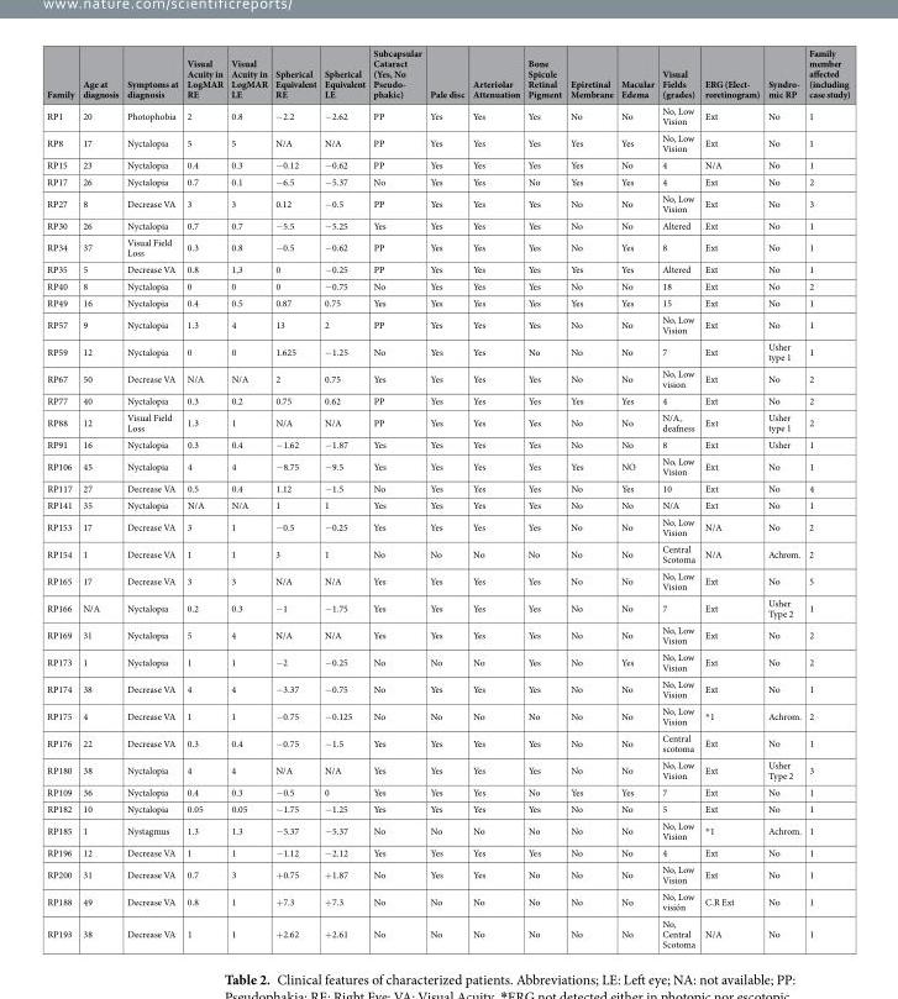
<table><thead><tr><td>Family</td><td>Age at diagnosis</td><td>Symptoms at diagnosis</td><td>Visual Acuity in LogMAR RE</td><td>Visual Acuity in LogMAR LE</td><td>Spherical Equivalent RE</td><td>Spherical Equivalent LE</td><td>Subcapsular Cataract (Yes, No Pseudo phakic)</td><td>Pale disc</td><td>Arteriolar Attenuation</td><td>Bone Spicule Retinal Pigment</td><td>Epiretinal Membrane</td><td>Macular Edema</td><td>Visual Fields (grades)</td><td>ERG (Elect roretinogram)</td><td>Syndro mic RP</td><td>Family member affected (including case study)</td></tr></thead><tbody><tr><td>RP1</td><td>20</td><td>Photophobia</td><td>2</td><td>0.8</td><td>−2.2</td><td>−2.62</td><td>PP</td><td>Yes</td><td>Yes</td><td>Yes</td><td>No</td><td>No</td><td>No, Low Vision</td><td>Ext</td><td>No</td><td>1</td></tr><tr><td>RP8</td><td>17</td><td>Nyctalopia</td><td>5</td><td>5</td><td>N/A</td><td>N/A</td><td>PP</td><td>Yes</td><td>Yes</td><td>Yes</td><td>Yes</td><td>Yes</td><td>No, Low Vision</td><td>Ext</td><td>No</td><td>1</td></tr><tr><td>RP15</td><td>23</td><td>Nyctalopia</td><td>0.4</td><td>0.3</td><td>−0.12</td><td>−0.62</td><td>PP</td><td>Yes</td><td>Yes</td><td>Yes</td><td>Yes</td><td>No</td><td>4</td><td>N/A</td><td>No</td><td>1</td></tr><tr><td>RP17</td><td>26</td><td>Nyctalopia</td><td>0.7</td><td>0.1</td><td>−6.5</td><td>−5.37</td><td>No</td><td>Yes</td><td>Yes</td><td>No</td><td>Yes</td><td>Yes</td><td>4</td><td>Ext</td><td>No</td><td>2</td></tr><tr><td>RP27</td><td>8</td><td>Decrease VA</td><td>3</td><td>3</td><td>0.12</td><td>−0.5</td><td>PP</td><td>Yes</td><td>Yes</td><td>Yes</td><td>No</td><td>No</td><td>No, Low Vision</td><td>Ext</td><td>No</td><td>3</td></tr><tr><td>RP30</td><td>26</td><td>Nyctalopia</td><td>0.7</td><td>0.7</td><td>−5.5</td><td>−5.25</td><td>Yes</td><td>Yes</td><td>Yes</td><td>Yes</td><td>No</td><td>No</td><td>Altered</td><td>Ext</td><td>No</td><td>1</td></tr><tr><td>RP34</td><td>37</td><td>Visual Field Loss</td><td>0.3</td><td>0.8</td><td>−0.5</td><td>−0.62</td><td>PP</td><td>Yes</td><td>Yes</td><td>Yes</td><td>No</td><td>Yes</td><td>8</td><td>Ext</td><td>No</td><td>1</td></tr><tr><td>RP35</td><td>5</td><td>Decrease VA</td><td>0.8</td><td>1,3</td><td>0</td><td>−0.25</td><td>PP</td><td>Yes</td><td>Yes</td><td>Yes</td><td>Yes</td><td>Yes</td><td>Altered</td><td>Ext</td><td>No</td><td>1</td></tr><tr><td>RP40</td><td>8</td><td>Nyctalopia</td><td>0</td><td>0</td><td>0</td><td>−0.75</td><td>No</td><td>Yes</td><td>Yes</td><td>Yes</td><td>No</td><td>No</td><td>18</td><td>Ext</td><td>No</td><td>2</td></tr><tr><td>RP49</td><td>16</td><td>Nyctalopia</td><td>0.4</td><td>0.5</td><td>0.87</td><td>0.75</td><td>Yes</td><td>Yes</td><td>Yes</td><td>Yes</td><td>Yes</td><td>Yes</td><td>15</td><td>Ext</td><td>No</td><td>1</td></tr><tr><td>RP57</td><td>9</td><td>Nyctalopia</td><td>1.3</td><td>4</td><td>13</td><td>2</td><td>PP</td><td>Yes</td><td>Yes</td><td>Yes</td><td>No</td><td>No</td><td>No, Low Vision</td><td>Ext</td><td>No</td><td>1</td></tr><tr><td>RP59</td><td>12</td><td>Nyctalopia</td><td>0</td><td>0</td><td>1.625</td><td>−1.25</td><td>No</td><td>Yes</td><td>Yes</td><td>No</td><td>No</td><td>No</td><td>7</td><td>Ext</td><td>Usher type 1</td><td>1</td></tr><tr><td>RP67</td><td>50</td><td>Decrease VA</td><td>N/A</td><td>N/A</td><td>2</td><td>0.75</td><td>Yes</td><td>Yes</td><td>Yes</td><td>Yes</td><td>No</td><td>No</td><td>No, Low vision</td><td>Ext</td><td>No</td><td>2</td></tr><tr><td>RP77</td><td>40</td><td>Nyctalopia</td><td>0.3</td><td>0.2</td><td>0.75</td><td>0.62</td><td>PP</td><td>Yes</td><td>Yes</td><td>Yes</td><td>Yes</td><td>Yes</td><td>4</td><td>Ext</td><td>No</td><td>2</td></tr><tr><td>RP88</td><td>12</td><td>Visual Field Loss</td><td>1.3</td><td>1</td><td>N/A</td><td>N/A</td><td>PP</td><td>Yes</td><td>Yes</td><td>Yes</td><td>No</td><td>No</td><td>N/A, deafness</td><td>Ext</td><td>Usher type 1</td><td>2</td></tr><tr><td>RP91</td><td>16</td><td>Nyctalopia</td><td>0.3</td><td>0.4</td><td>−1.62</td><td>−1.87</td><td>Yes</td><td>Yes</td><td>Yes</td><td>Yes</td><td>No</td><td>No</td><td>8</td><td>Ext</td><td>Usher</td><td>1</td></tr><tr><td>RP106</td><td>45</td><td>Nyctalopia</td><td>4</td><td>4</td><td>−8.75</td><td>−9.5</td><td>Yes</td><td>Yes</td><td>Yes</td><td>Yes</td><td>Yes</td><td>NO</td><td>No, Low Vision</td><td>Ext</td><td>No</td><td>1</td></tr><tr><td>RP117</td><td>27</td><td>Decrease VA</td><td>0.5</td><td>0.4</td><td>1.12</td><td>−1.5</td><td>No</td><td>Yes</td><td>Yes</td><td>Yes</td><td>No</td><td>Yes</td><td>10</td><td>Ext</td><td>No</td><td>4</td></tr><tr><td>RP141</td><td>35</td><td>Nyctalopia</td><td>N/A</td><td>N/A</td><td>1</td><td>1</td><td>Yes</td><td>Yes</td><td>Yes</td><td>Yes</td><td>No</td><td>No</td><td>N/A</td><td>Ext</td><td>No</td><td>1</td></tr><tr><td>RP153</td><td>17</td><td>Decrease VA</td><td>3</td><td>1</td><td>−0.5</td><td>−0.25</td><td>Yes</td><td>Yes</td><td>Yes</td><td>Yes</td><td>No</td><td>No</td><td>No, Low Vision</td><td>N/A</td><td>No</td><td>2</td></tr><tr><td>RP154</td><td>1</td><td>Decrease VA</td><td>1</td><td>1</td><td>3</td><td>1</td><td>No</td><td>No</td><td>No</td><td>No</td><td>No</td><td>No</td><td>Central Scotoma</td><td>N/A</td><td>Achrom.</td><td>2</td></tr><tr><td>RP165</td><td>17</td><td>Decrease VA</td><td>3</td><td>3</td><td>N/A</td><td>N/A</td><td>Yes</td><td>Yes</td><td>Yes</td><td>Yes</td><td>No</td><td>No</td><td>No, Low Vision</td><td>Ext</td><td>No</td><td>5</td></tr><tr><td>RP166</td><td>N/A</td><td>Nyctalopia</td><td>0.2</td><td>0.3</td><td>−1</td><td>−1.75</td><td>Yes</td><td>Yes</td><td>Yes</td><td>Yes</td><td>No</td><td>No</td><td>7</td><td>Ext</td><td>Usher Type 2</td><td>1</td></tr><tr><td>RP169</td><td>31</td><td>Nyctalopia</td><td>5</td><td>4</td><td>N/A</td><td>N/A</td><td>Yes</td><td>Yes</td><td>Yes</td><td>Yes</td><td>No</td><td>No</td><td>No, Low Vision</td><td>Ext</td><td>No</td><td>2</td></tr><tr><td>RP173</td><td>1</td><td>Nyctalopia</td><td>1</td><td>1</td><td>−2</td><td>−0.25</td><td>No</td><td>No</td><td>No</td><td>Yes</td><td>No</td><td>Yes</td><td>No, Low Vision</td><td>Ext</td><td>No</td><td>2</td></tr><tr><td>RP174</td><td>38</td><td>Decrease VA</td><td>4</td><td>4</td><td>−3.37</td><td>−0.75</td><td>No</td><td>Yes</td><td>Yes</td><td>Yes</td><td>No</td><td>No</td><td>No, Low Vision</td><td>Ext</td><td>No</td><td>1</td></tr><tr><td>RP175</td><td>4</td><td>Decrease VA</td><td>1</td><td>1</td><td>−0.75</td><td>−0.125</td><td>No</td><td>No</td><td>No</td><td>No</td><td>No</td><td>No</td><td>No, Low Vision</td><td>*1</td><td>Achrom.</td><td>2</td></tr><tr><td>RP176</td><td>22</td><td>Decrease VA</td><td>0.3</td><td>0.4</td><td>−0.75</td><td>−1.5</td><td>Yes</td><td>Yes</td><td>Yes</td><td>Yes</td><td>No</td><td>No</td><td>Central scotoma</td><td>Ext</td><td>No</td><td>1</td></tr><tr><td>RP180</td><td>38</td><td>Nyctalopia</td><td>4</td><td>4</td><td>N/A</td><td>N/A</td><td>Yes</td><td>Yes</td><td>Yes</td><td>Yes</td><td>No</td><td>No</td><td>No, Low Vision</td><td>Ext</td><td>Usher Type 2</td><td>3</td></tr><tr><td>RP109</td><td>36</td><td>Nyctalopia</td><td>0.4</td><td>0.3</td><td>−0.5</td><td>0</td><td>Yes</td><td>Yes</td><td>Yes</td><td>No</td><td>Yes</td><td>Yes</td><td>7</td><td>Ext</td><td>No</td><td>1</td></tr><tr><td>RP182</td><td>10</td><td>Nyctalopia</td><td>0.05</td><td>0.05</td><td>−1.75</td><td>−1.25</td><td>Yes</td><td>Yes</td><td>Yes</td><td>Yes</td><td>No</td><td>No</td><td>5</td><td>Ext</td><td>No</td><td>1</td></tr><tr><td>RP185</td><td>1</td><td>Nystagmus</td><td>1.3</td><td>1.3</td><td>−5.37</td><td>−5.37</td><td>No</td><td>No</td><td>No</td><td>No</td><td>No</td><td>No</td><td>No, Low Vision</td><td>*1</td><td>Achrom.</td><td>1</td></tr><tr><td>RP196</td><td>12</td><td>Decrease VA</td><td>1</td><td>1</td><td>−1.12</td><td>−2.12</td><td>Yes</td><td>Yes</td><td>Yes</td><td>Yes</td><td>No</td><td>No</td><td>4</td><td>Ext</td><td>No</td><td>1</td></tr><tr><td>RP200</td><td>31</td><td>Decrease VA</td><td>0.7</td><td>3</td><td>+0.75</td><td>+1.87</td><td>No</td><td>Yes</td><td>Yes</td><td>No</td><td>No</td><td>No</td><td>No, Low Vision</td><td>Ext</td><td>No</td><td>1</td></tr><tr><td>RP188</td><td>49</td><td>Decrease VA</td><td>0.8</td><td>1</td><td>+7.3</td><td>+7.3</td><td>No</td><td>No</td><td>No</td><td>No</td><td>No</td><td>No</td><td>No, Low visión</td><td>C.R Ext</td><td>No</td><td>1</td></tr><tr><td>RP193</td><td>38</td><td>Decrease VA</td><td>1</td><td>1</td><td>+2.62</td><td>+2.61</td><td>No</td><td>No</td><td>No</td><td>No</td><td>No</td><td>No</td><td>No, Central Scotoma</td><td>N/A</td><td>No</td><td>1</td></tr></tbody></table>